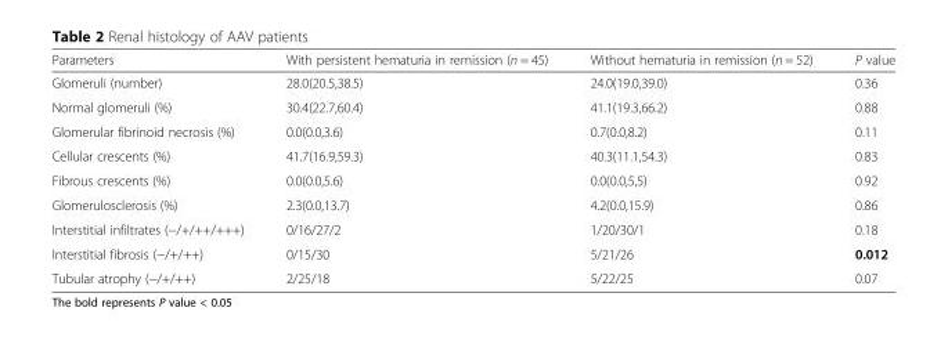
<table><thead><tr><td>Parameters</td><td>With persistent hematuria in remission (n = 45)</td><td>Without hematuria in remission (n = 52)</td><td>P value</td></tr></thead><tbody><tr><td>Glomeruli (number)</td><td>28.0(20.5,38.5)</td><td>24.0(19.0,39.0)</td><td>0.36</td></tr><tr><td>Normal glomeruli (%)</td><td>30.4(22.7,60.4)</td><td>41.1(19.3,66.2)</td><td>0.88</td></tr><tr><td>Glomerular fibrinoid necrosis (%)</td><td>0.0(0.0,3.6)</td><td>0.7(0.0,8.2)</td><td>0.11</td></tr><tr><td>Cellular crescents (%)</td><td>41.7(16.9,59.3)</td><td>40.3(11.1,54.3)</td><td>0.83</td></tr><tr><td>Fibrous crescents (%)</td><td>0.0(0.0,5.6)</td><td>0.0(0.0,5,5)</td><td>0.92</td></tr><tr><td>Glomerulosclerosis (%)</td><td>2.3(0.0,13.7)</td><td>4.2(0.0,15.9)</td><td>0.86</td></tr><tr><td>Interstitial infiltrates (−/+/++/+++)</td><td>0/16/27/2</td><td>1/20/30/1</td><td>0.18</td></tr><tr><td>Interstitial fibrosis (−/+/++)</td><td>0/15/30</td><td>5/21/26</td><td>0.012</td></tr><tr><td>Tubular atrophy (−/+/++)</td><td>2/25/18</td><td>5/22/25</td><td>0.07</td></tr></tbody></table>